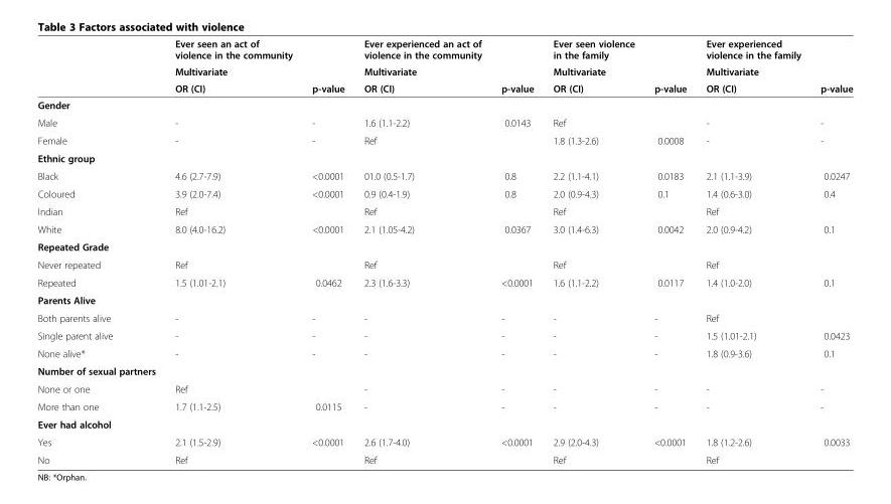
<table><thead><tr><td rowspan="3"></td><td rowspan="3">Ever seen an act of violence in the community Multivariate OR (CI)</td><td rowspan="3">p-value</td><td rowspan="3">Ever experienced an act of violence in the community Multivariate OR (CI)</td><td rowspan="3">p-value</td><td rowspan="3">Ever seen violence in the family Multivariate OR (CI)</td><td rowspan="3">p-value</td><td rowspan="3">Ever experienced violence in the family Multivariate OR (CI)</td><td rowspan="3">p-value</td></tr><tr></tr><tr></tr></thead><tbody><tr><td colspan="9">Gender</td></tr><tr><td>Male</td><td>-</td><td>-</td><td>1.6 (1.1-2.2)</td><td>0.0143</td><td>Ref</td><td></td><td>-</td><td>-</td></tr><tr><td>Female</td><td>-</td><td>-</td><td>Ref</td><td></td><td>1.8 (1.3-2.6)</td><td>0.0008</td><td>-</td><td>-</td></tr><tr><td colspan="9">Ethnic group</td></tr><tr><td>Black</td><td>4.6 (2.7-7.9)</td><td>&lt;0.0001</td><td>01.0 (0.5-1.7)</td><td>0.8</td><td>2.2 (1.1-4.1)</td><td>0.0183</td><td>2.1 (1.1-3.9)</td><td>0.0247</td></tr><tr><td>Coloured</td><td>3.9 (2.0-7.4)</td><td>&lt;0.0001</td><td>0.9 (0.4-1.9)</td><td>0.8</td><td>2.0 (0.9-4.3)</td><td>0.1</td><td>1.4 (0.6-3.0)</td><td>0.4</td></tr><tr><td>Indian</td><td>Ref</td><td></td><td>Ref</td><td></td><td>Ref</td><td></td><td>Ref</td><td></td></tr><tr><td>White</td><td>8.0 (4.0-16.2)</td><td>&lt;0.0001</td><td>2.1 (1.05-4.2)</td><td>0.0367</td><td>3.0 (1.4-6.3)</td><td>0.0042</td><td>2.0 (0.9-4.2)</td><td>0.1</td></tr><tr><td colspan="9">Repeated Grade</td></tr><tr><td>Never repeated</td><td>Ref</td><td></td><td>Ref</td><td></td><td>Ref</td><td></td><td>Ref</td><td></td></tr><tr><td>Repeated</td><td>1.5 (1.01-2.1)</td><td>0.0462</td><td>2.3 (1.6-3.3)</td><td>&lt;0.0001</td><td>1.6 (1.1-2.2)</td><td>0.0117</td><td>1.4 (1.0-2.0)</td><td>0.1</td></tr><tr><td colspan="9">Parents Alive</td></tr><tr><td>Both parents alive</td><td>-</td><td>-</td><td>-</td><td>-</td><td>-</td><td>-</td><td>Ref</td><td></td></tr><tr><td>Single parent alive</td><td>-</td><td>-</td><td>-</td><td>-</td><td>-</td><td>-</td><td>1.5 (1.01-2.1)</td><td>0.0423</td></tr><tr><td>None alive*</td><td>-</td><td>-</td><td>-</td><td>-</td><td>-</td><td>-</td><td>1.8 (0.9-3.6)</td><td>0.1</td></tr><tr><td colspan="9">Number of sexual partners</td></tr><tr><td>None or one</td><td>Ref</td><td></td><td>-</td><td>-</td><td>-</td><td>-</td><td>-</td><td>-</td></tr><tr><td>More than one</td><td>1.7 (1.1-2.5)</td><td>0.0115</td><td>-</td><td>-</td><td>-</td><td>-</td><td>-</td><td>-</td></tr><tr><td colspan="9">Ever had alcohol</td></tr><tr><td>Yes</td><td>2.1 (1.5-2.9)</td><td>&lt;0.0001</td><td>2.6 (1.7-4.0)</td><td>&lt;0.0001</td><td>2.9 (2.0-4.3)</td><td>&lt;0.0001</td><td>1.8 (1.2-2.6)</td><td>0.0033</td></tr><tr><td>No</td><td>Ref</td><td></td><td>Ref</td><td></td><td>Ref</td><td></td><td>Ref</td><td></td></tr></tbody></table>